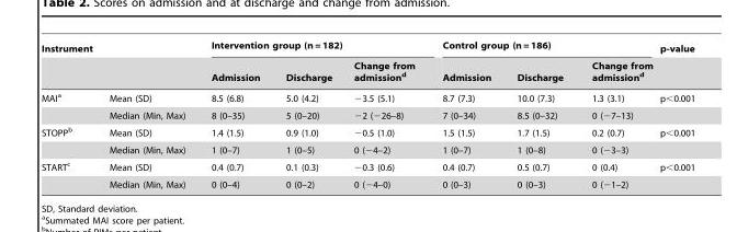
<table><thead><tr><td rowspan="2">Instrument</td><td rowspan="2"></td><td colspan="3">Intervention group (n = 182)</td><td colspan="3">Control group (n = 186)</td><td rowspan="2">p-value</td></tr><tr><td>Admission</td><td>Discharge</td><td>Change from admission<sup>d</sup></td><td>Admission</td><td>Discharge</td><td>Change from admission<sup>d</sup></td></tr></thead><tbody><tr><td rowspan="2">MAI<sup>a</sup></td><td>Mean (SD)</td><td>8.5 (6.8)</td><td>5.0 (4.2)</td><td>−3.5 (5.1)</td><td>8.7 (7.3)</td><td>10.0 (7.3)</td><td>1.3 (3.1)</td><td>p&lt;0.001</td></tr><tr><td>Median (Min, Max)</td><td>8 (0–35)</td><td>5 (0–20)</td><td>−2 (−26–8)</td><td>7 (0–34)</td><td>8.5 (0–32)</td><td>0 (−7–13)</td><td></td></tr><tr><td rowspan="2">STOPP<sup>b</sup></td><td>Mean (SD)</td><td>1.4 (1.5)</td><td>0.9 (1.0)</td><td>−0.5 (1.0)</td><td>1.5 (1.5)</td><td>1.7 (1.5)</td><td>0.2 (0.7)</td><td>p&lt;0.001</td></tr><tr><td>Median (Min, Max)</td><td>1 (0–7)</td><td>1 (0–5)</td><td>0 (−4–2)</td><td>1 (0–7)</td><td>1 (0–8)</td><td>0 (−3–3)</td><td></td></tr><tr><td rowspan="2">START<sup>c</sup></td><td>Mean (SD)</td><td>0.4 (0.7)</td><td>0.1 (0.3)</td><td>−0.3 (0.6)</td><td>0.4 (0.7)</td><td>0.5 (0.7)</td><td>0 (0.4)</td><td>p&lt;0.001</td></tr><tr><td>Median (Min, Max)</td><td>0 (0–4)</td><td>0 (0–2)</td><td>0 (−4–0)</td><td>0 (0–3)</td><td>0 (0–3)</td><td>0 (−1–2)</td><td></td></tr></tbody></table>